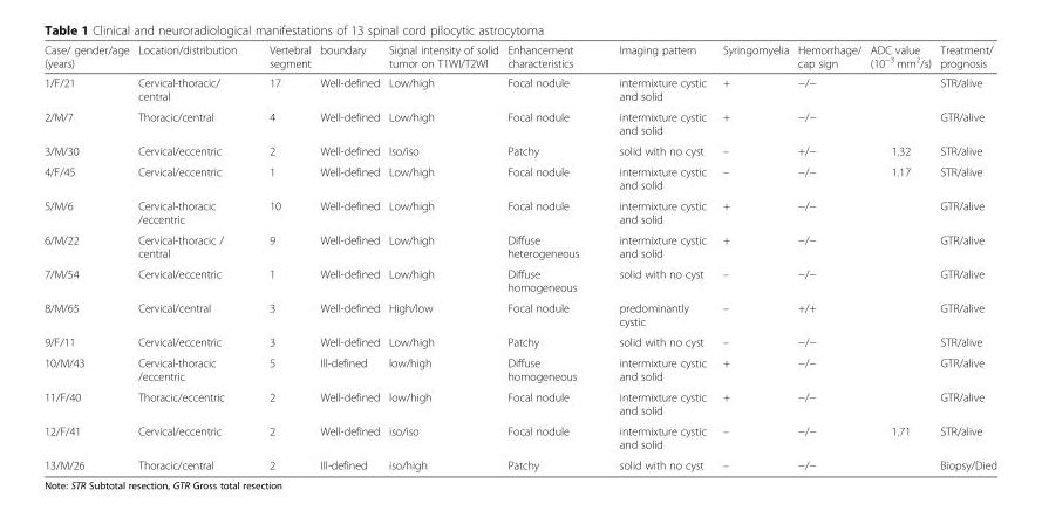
<table><thead><tr><td>Case/ gender/age (years)</td><td>Location/distribution</td><td>Vertebral segment</td><td>boundary</td><td>Signal intensity of solid tumor on T1WI/T2WI</td><td>Enhancement characteristics</td><td>Imaging pattern</td><td>Syringomyelia</td><td>Hemorrhage/ cap sign</td><td>ADC value (10<sup>−3</sup> mm<sup>2</sup>/s)</td><td>Treatment/ prognosis</td></tr></thead><tbody><tr><td>1/F/21</td><td>Cervical-thoracic/ central</td><td>17</td><td>Well-defined</td><td>Low/high</td><td>Focal nodule</td><td>intermixture cystic and solid</td><td>+</td><td>−/−</td><td></td><td>STR/alive</td></tr><tr><td>2/M/7</td><td>Thoracic/central</td><td>4</td><td>Well-defined</td><td>Low/high</td><td>Focal nodule</td><td>intermixture cystic and solid</td><td>+</td><td>−/−</td><td></td><td>GTR/alive</td></tr><tr><td>3/M/30</td><td>Cervical/eccentric</td><td>2</td><td>Well-defined</td><td>Iso/iso</td><td>Patchy</td><td>solid with no cyst</td><td>–</td><td>+/−</td><td>1.32</td><td>STR/alive</td></tr><tr><td>4/F/45</td><td>Cervical/eccentric</td><td>1</td><td>Well-defined</td><td>Low/high</td><td>Focal nodule</td><td>intermixture cystic and solid</td><td>–</td><td>−/−</td><td>1.17</td><td>STR/alive</td></tr><tr><td>5/M/6</td><td>Cervical-thoracic /eccentric</td><td>10</td><td>Well-defined</td><td>Low/high</td><td>Focal nodule</td><td>intermixture cystic and solid</td><td>+</td><td>−/−</td><td></td><td>GTR/alive</td></tr><tr><td>6/M/22</td><td>Cervical-thoracic / central</td><td>9</td><td>Well-defined</td><td>Low/high</td><td>Diffuse heterogeneous</td><td>intermixture cystic and solid</td><td>+</td><td>−/−</td><td></td><td>GTR/alive</td></tr><tr><td>7/M/54</td><td>Cervical/eccentric</td><td>1</td><td>Well-defined</td><td>Low/high</td><td>Diffuse homogeneous</td><td>solid with no cyst</td><td>–</td><td>−/−</td><td></td><td>GTR/alive</td></tr><tr><td>8/M/65</td><td>Cervical/central</td><td>3</td><td>Well-defined</td><td>High/low</td><td>Focal nodule</td><td>predominantly cystic</td><td>–</td><td>+/+</td><td></td><td>GTR/alive</td></tr><tr><td>9/F/11</td><td>Cervical/eccentric</td><td>3</td><td>Well-defined</td><td>Low/high</td><td>Patchy</td><td>solid with no cyst</td><td>–</td><td>−/−</td><td></td><td>STR/alive</td></tr><tr><td>10/M/43</td><td>Cervical-thoracic /eccentric</td><td>5</td><td>Ill-defined</td><td>low/high</td><td>Diffuse homogeneous</td><td>intermixture cystic and solid</td><td>+</td><td>−/−</td><td></td><td>GTR/alive</td></tr><tr><td>11/F/40</td><td>Thoracic/eccentric</td><td>2</td><td>Well-defined</td><td>low/high</td><td>Focal nodule</td><td>intermixture cystic and solid</td><td>+</td><td>−/−</td><td></td><td>GTR/alive</td></tr><tr><td>12/F/41</td><td>Cervical/eccentric</td><td>2</td><td>Well-defined</td><td>iso/iso</td><td>Focal nodule</td><td>intermixture cystic and solid</td><td>–</td><td>−/−</td><td>1.71</td><td>STR/alive</td></tr><tr><td>13/M/26</td><td>Thoracic/central</td><td>2</td><td>Ill-defined</td><td>iso/high</td><td>Patchy</td><td>solid with no cyst</td><td>–</td><td>−/−</td><td></td><td>Biopsy/Died</td></tr></tbody></table>